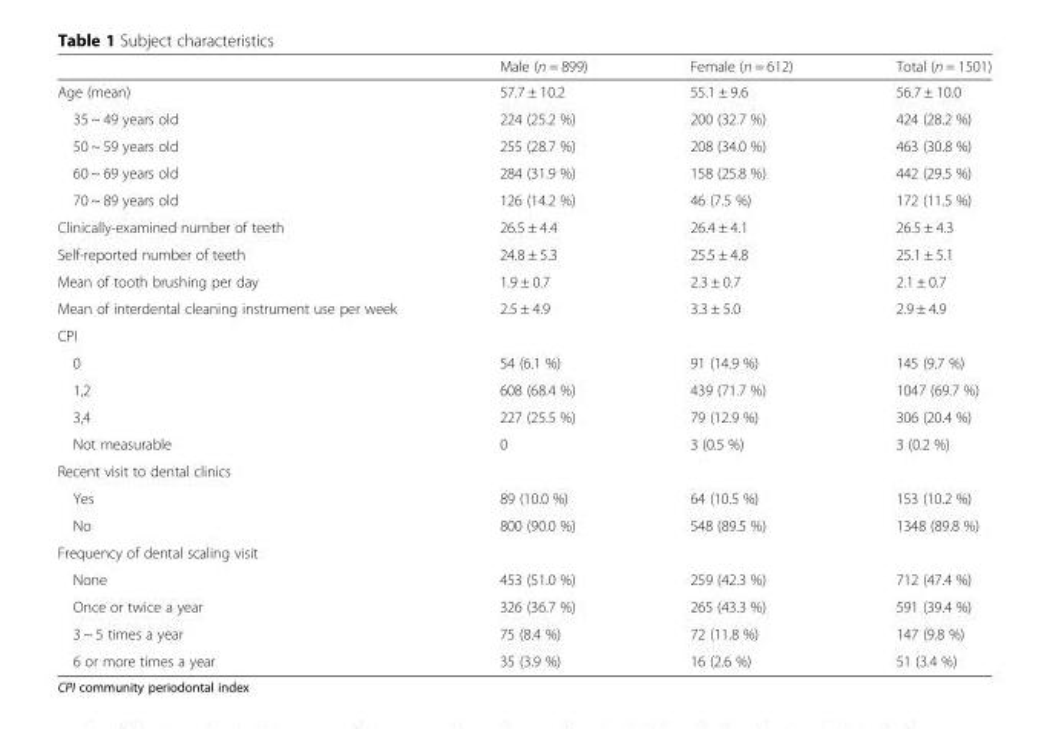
<table><thead><tr><td></td><td>Male (n = 899)</td><td>Female (n = 612)</td><td>Total (n = 1501)</td></tr></thead><tbody><tr><td>Age (mean)</td><td>57.7 ± 10.2</td><td>55.1 ± 9.6</td><td>56.7 ± 10.0</td></tr><tr><td>35 ~ 49 years old</td><td>224 (25.2 %)</td><td>200 (32.7 %)</td><td>424 (28.2 %)</td></tr><tr><td>50 ~ 59 years old</td><td>255 (28.7 %)</td><td>208 (34.0 %)</td><td>463 (30.8 %)</td></tr><tr><td>60 ~ 69 years old</td><td>284 (31.9 %)</td><td>158 (25.8 %)</td><td>442 (29.5 %)</td></tr><tr><td>70 ~ 89 years old</td><td>126 (14.2 %)</td><td>46 (7.5 %)</td><td>172 (11.5 %)</td></tr><tr><td>Clinically-examined number of teeth</td><td>26.5 ± 4.4</td><td>26.4 ± 4.1</td><td>26.5 ± 4.3</td></tr><tr><td>Self-reported number of teeth</td><td>24.8 ± 5.3</td><td>25.5 ± 4.8</td><td>25.1 ± 5.1</td></tr><tr><td>Mean of tooth brushing per day</td><td>1.9 ± 0.7</td><td>2.3 ± 0.7</td><td>2.1 ± 0.7</td></tr><tr><td>Mean of interdental cleaning instrument use per week</td><td>2.5 ± 4.9</td><td>3.3 ± 5.0</td><td>2.9 ± 4.9</td></tr><tr><td colspan="4">CPI</td></tr><tr><td>0</td><td>54 (6.1 %)</td><td>91 (14.9 %)</td><td>145 (9.7 %)</td></tr><tr><td>1,2</td><td>608 (68.4 %)</td><td>439 (71.7 %)</td><td>1047 (69.7 %)</td></tr><tr><td>3,4</td><td>227 (25.5 %)</td><td>79 (12.9 %)</td><td>306 (20.4 %)</td></tr><tr><td>Not measurable</td><td>0</td><td>3 (0.5 %)</td><td>3 (0.2 %)</td></tr><tr><td colspan="4">Recent visit to dental clinics</td></tr><tr><td>Yes</td><td>89 (10.0 %)</td><td>64 (10.5 %)</td><td>153 (10.2 %)</td></tr><tr><td>No</td><td>800 (90.0 %)</td><td>548 (89.5 %)</td><td>1348 (89.8 %)</td></tr><tr><td colspan="4">Frequency of dental scaling visit</td></tr><tr><td>None</td><td>453 (51.0 %)</td><td>259 (42.3 %)</td><td>712 (47.4 %)</td></tr><tr><td>Once or twice a year</td><td>326 (36.7 %)</td><td>265 (43.3 %)</td><td>591 (39.4 %)</td></tr><tr><td>3 ~ 5 times a year</td><td>75 (8.4 %)</td><td>72 (11.8 %)</td><td>147 (9.8 %)</td></tr><tr><td>6 or more times a year</td><td>35 (3.9 %)</td><td>16 (2.6 %)</td><td>51 (3.4 %)</td></tr></tbody></table>